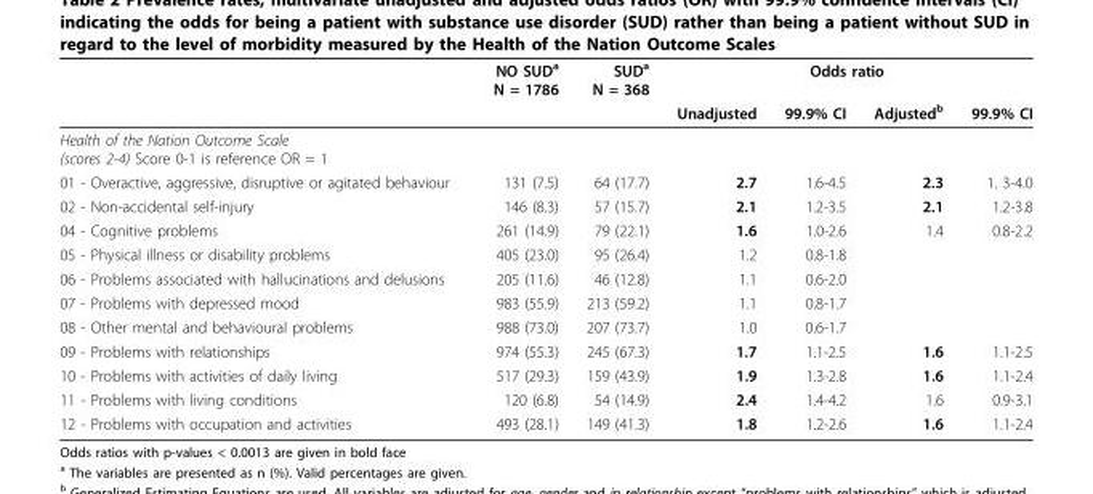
<table><thead><tr><td rowspan="2"></td><td rowspan="2">NO SUD<sup>a</sup> N = 1786</td><td rowspan="2">SUD<sup>a</sup> N = 368</td><td colspan="4">Odds ratio</td></tr><tr><td>Unadjusted</td><td>99.9% CI</td><td>Adjusted<sup>b</sup></td><td>99.9% CI</td></tr></thead><tbody><tr><td colspan="7">Health of the Nation Outcome Scale (scores 2-4) Score 0-1 is reference OR = 1</td></tr><tr><td>01 - Overactive, aggressive, disruptive or agitated behaviour</td><td>131 (7.5)</td><td>64 (17.7)</td><td>2.7</td><td>1.6-4.5</td><td>2.3</td><td>1. 3-4.0</td></tr><tr><td>02 - Non-accidental self-injury</td><td>146 (8.3)</td><td>57 (15.7)</td><td>2.1</td><td>1.2-3.5</td><td>2.1</td><td>1.2-3.8</td></tr><tr><td>04 - Cognitive problems</td><td>261 (14.9)</td><td>79 (22.1)</td><td>1.6</td><td>1.0-2.6</td><td>1.4</td><td>0.8-2.2</td></tr><tr><td>05 - Physical illness or disability problems</td><td>405 (23.0)</td><td>95 (26.4)</td><td>1.2</td><td>0.8-1.8</td><td></td><td></td></tr><tr><td>06 - Problems associated with hallucinations and delusions</td><td>205 (11.6)</td><td>46 (12.8)</td><td>1.1</td><td>0.6-2.0</td><td></td><td></td></tr><tr><td>07 - Problems with depressed mood</td><td>983 (55.9)</td><td>213 (59.2)</td><td>1.1</td><td>0.8-1.7</td><td></td><td></td></tr><tr><td>08 - Other mental and behavioural problems</td><td>988 (73.0)</td><td>207 (73.7)</td><td>1.0</td><td>0.6-1.7</td><td></td><td></td></tr><tr><td>09 - Problems with relationships</td><td>974 (55.3)</td><td>245 (67.3)</td><td>1.7</td><td>1.1-2.5</td><td>1.6</td><td>1.1-2.5</td></tr><tr><td>10 - Problems with activities of daily living</td><td>517 (29.3)</td><td>159 (43.9)</td><td>1.9</td><td>1.3-2.8</td><td>1.6</td><td>1.1-2.4</td></tr><tr><td>11 - Problems with living conditions</td><td>120 (6.8)</td><td>54 (14.9)</td><td>2.4</td><td>1.4-4.2</td><td>1.6</td><td>0.9-3.1</td></tr><tr><td>12 - Problems with occupation and activities</td><td>493 (28.1)</td><td>149 (41.3)</td><td>1.8</td><td>1.2-2.6</td><td>1.6</td><td>1.1-2.4</td></tr></tbody></table>